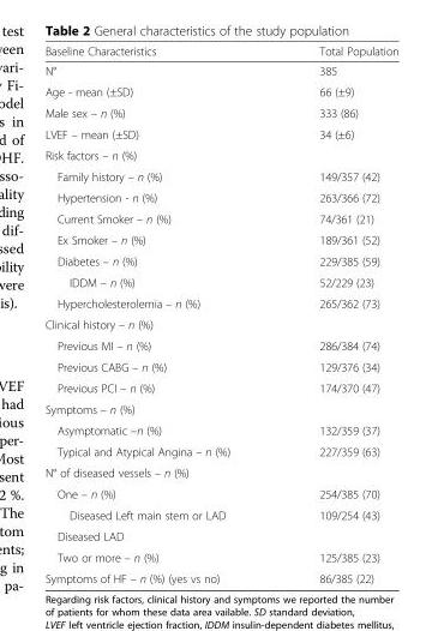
<table><thead><tr><td>Baseline Characteristics</td><td>Total Population</td></tr></thead><tbody><tr><td>N°</td><td>385</td></tr><tr><td>Age - mean (±SD)</td><td>66 (±9)</td></tr><tr><td>Male sex – n (%)</td><td>333 (86)</td></tr><tr><td>LVEF – mean (±SD)</td><td>34 (±6)</td></tr><tr><td colspan="2">Risk factors – n (%)</td></tr><tr><td>Family history – n (%)</td><td>149/357 (42)</td></tr><tr><td>Hypertension - n (%)</td><td>263/366 (72)</td></tr><tr><td>Current Smoker – n (%)</td><td>74/361 (21)</td></tr><tr><td>Ex Smoker – n (%)</td><td>189/361 (52)</td></tr><tr><td>Diabetes – n (%)</td><td>229/385 (59)</td></tr><tr><td>IDDM – n (%)</td><td>52/229 (23)</td></tr><tr><td>Hypercholesterolemia – n (%)</td><td>265/362 (73)</td></tr><tr><td colspan="2">Clinical history – n (%)</td></tr><tr><td>Previous MI – n (%)</td><td>286/384 (74)</td></tr><tr><td>Previous CABG – n (%)</td><td>129/376 (34)</td></tr><tr><td>Previous PCI – n (%)</td><td>174/370 (47)</td></tr><tr><td colspan="2">Symptoms – n (%)</td></tr><tr><td>Asymptomatic –n (%)</td><td>132/359 (37)</td></tr><tr><td>Typical and Atypical Angina – n (%)</td><td>227/359 (63)</td></tr><tr><td colspan="2">N° of diseased vessels – n (%)</td></tr><tr><td>One – n (%)</td><td>254/385 (70)</td></tr><tr><td>Diseased Left main stem or LAD</td><td>109/254 (43)</td></tr><tr><td colspan="2">Diseased LAD</td></tr><tr><td>Two or more – n (%)</td><td>125/385 (23)</td></tr><tr><td>Symptoms of HF – n (%) (yes vs no)</td><td>86/385 (22)</td></tr></tbody></table>